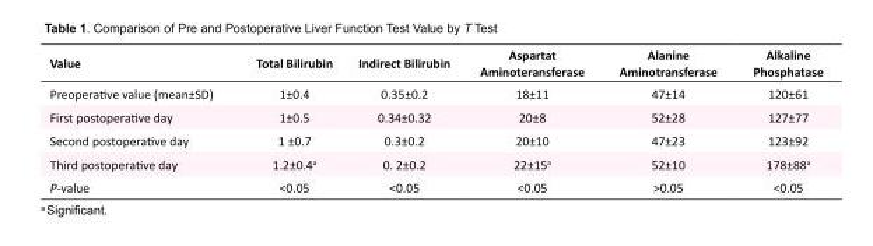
<table><tbody><tr><td>Value</td><td>Total Bilirubin</td><td>Indirect Bilirubin</td><td>Aspartat Aminoteransferase</td><td>Alanine Aminotransferase</td><td>Alkaline Phosphatase</td></tr><tr><td>Preoperative value (mean±SD)</td><td>1±0.4</td><td>0.35±0.2</td><td>18±11</td><td>47±14</td><td>120±61</td></tr><tr><td>First postoperative day</td><td>1±0.5</td><td>0.34±0.32</td><td>20±8</td><td>52±28</td><td>127±77</td></tr><tr><td>Second postoperative day</td><td>1 ±0.7</td><td>0.3±0.2</td><td>20±10</td><td>47±23</td><td>123±92</td></tr><tr><td>Third postoperative day</td><td>1.2±0.4<sup>a</sup></td><td>0. 2±0.2</td><td>22±15<sup>a</sup></td><td>52±10</td><td>178±88<sup>a</sup></td></tr><tr><td>P-value</td><td>&lt;0.05</td><td>&lt;0.05</td><td>&lt;0.05</td><td>&gt;0.05</td><td>&lt;0.05</td></tr></tbody></table>